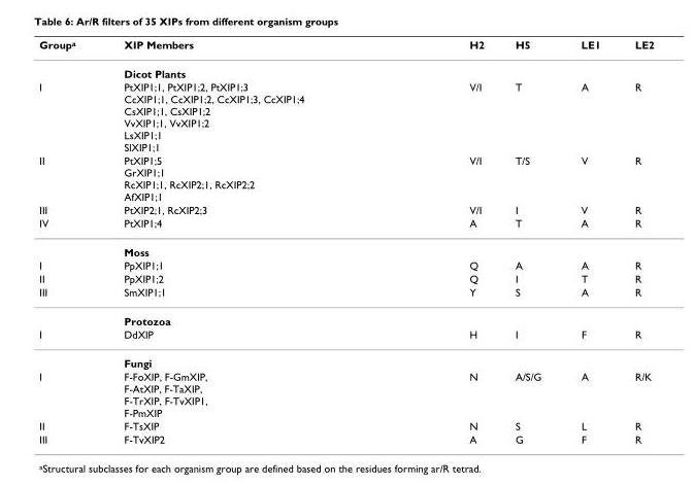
<table><thead><tr><td>Group<sup>a</sup></td><td>XIP Members</td><td>H2</td><td>H5</td><td>LE1</td><td>LE2</td></tr></thead><tbody><tr><td></td><td>Dicot Plants</td><td></td><td></td><td></td><td></td></tr><tr><td>I</td><td>PtXIP1;1, PtXIP1;2, PtXIP1;3 CcXIP1;1, CcXIP1;2, CcXIP1;3, CcXIP1;4 CsXIP1;1, CsXIP1;2 VvXIP1;1, VvXIP1;2 LsXIP1;1 SlXIP1;1</td><td>V/I</td><td>T</td><td>A</td><td>R</td></tr><tr><td>II</td><td>PtXIP1;5 GrXIP1;1 RcXIP1;1, RcXIP2;1, RcXIP2;2 AfXIP1;1</td><td>V/I</td><td>T/S</td><td>V</td><td>R</td></tr><tr><td>III</td><td>PtXIP2;1, RcXIP2;3</td><td>V/I</td><td>I</td><td>V</td><td>R</td></tr><tr><td rowspan="2">IV</td><td>PtXIP1;4</td><td>A</td><td>T</td><td>A</td><td>R</td></tr><tr><td>Moss</td><td></td><td></td><td></td><td></td></tr><tr><td>I</td><td>PpXIP1;1</td><td>Q</td><td>A</td><td>A</td><td>R</td></tr><tr><td>II</td><td>PpXIP1;2</td><td>Q</td><td>I</td><td>T</td><td>R</td></tr><tr><td rowspan="2">III</td><td>SmXIP1;1</td><td>Y</td><td>S</td><td>A</td><td>R</td></tr><tr><td>Protozoa</td><td></td><td></td><td></td><td></td></tr><tr><td rowspan="2">I</td><td>DdXIP</td><td>H</td><td>I</td><td>F</td><td>R</td></tr><tr><td>Fungi</td><td></td><td></td><td></td><td></td></tr><tr><td>I</td><td>F-FoXIP, F-GmXIP, F-AtXIP, F-TaXIP, F-TrXIP, F-TvXIP1, F-PmXIP</td><td>N</td><td>A/S/G</td><td>A</td><td>R/K</td></tr><tr><td>II</td><td>F-TsXIP</td><td>N</td><td>S</td><td>L</td><td>R</td></tr><tr><td>III</td><td>F-TvXIP2</td><td>A</td><td>G</td><td>F</td><td>R</td></tr></tbody></table>